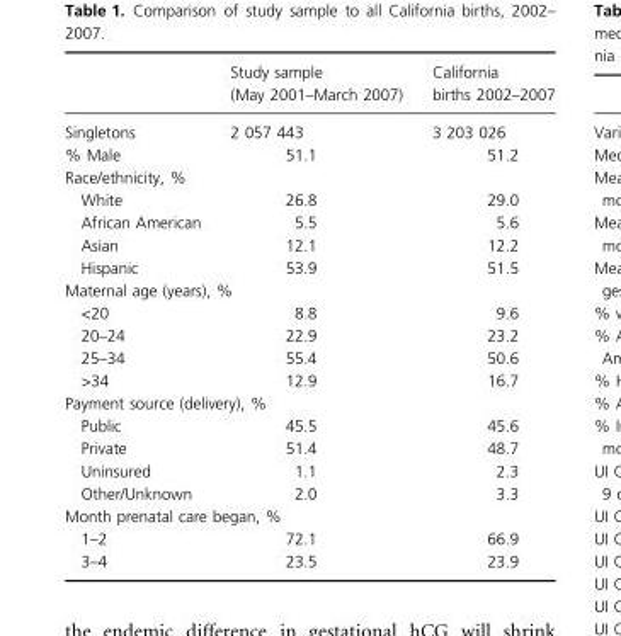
<table><thead><tr><td></td><td>Study sample (May 2001–March 2007)</td><td>California births 2002–2007</td></tr></thead><tbody><tr><td>Singletons</td><td>2 057 443</td><td>3 203 026</td></tr><tr><td>% Male</td><td>51.1</td><td>51.2</td></tr><tr><td colspan="3">Race/ethnicity, %</td></tr><tr><td>White</td><td>26.8</td><td>29.0</td></tr><tr><td>African American</td><td>5.5</td><td>5.6</td></tr><tr><td>Asian</td><td>12.1</td><td>12.2</td></tr><tr><td>Hispanic</td><td>53.9</td><td>51.5</td></tr><tr><td colspan="3">Maternal age (years), %</td></tr><tr><td>&lt;20</td><td>8.8</td><td>9.6</td></tr><tr><td>20–24</td><td>22.9</td><td>23.2</td></tr><tr><td>25–34</td><td>55.4</td><td>50.6</td></tr><tr><td>&gt;34</td><td>12.9</td><td>16.7</td></tr><tr><td colspan="3">Payment source (delivery), %</td></tr><tr><td>Public</td><td>45.5</td><td>45.6</td></tr><tr><td>Private</td><td>51.4</td><td>48.7</td></tr><tr><td>Uninsured</td><td>1.1</td><td>2.3</td></tr><tr><td>Other/Unknown</td><td>2.0</td><td>3.3</td></tr><tr><td colspan="3">Month prenatal care began, %</td></tr><tr><td>1–2</td><td>72.1</td><td>66.9</td></tr><tr><td>3–4</td><td>23.5</td><td>23.9</td></tr></tbody></table>